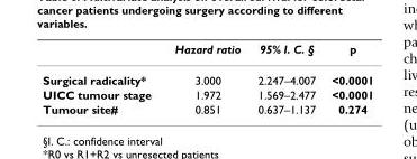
<table><thead><tr><td></td><td>Hazard ratio</td><td>95% I. C. §</td><td>p</td></tr></thead><tbody><tr><td>Surgical radicality*</td><td>3.000</td><td>2.247–4.007</td><td>&lt;0.0001</td></tr><tr><td>UICC tumour stage</td><td>1.972</td><td>1.569–2.477</td><td>&lt;0.0001</td></tr><tr><td>Tumour site#</td><td>0.851</td><td>0.637–1.137</td><td>0.274</td></tr></tbody></table>